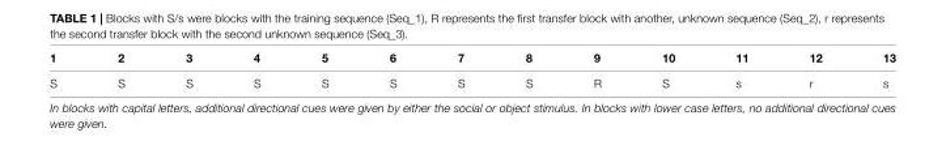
<table><thead><tr><td>1</td><td>2</td><td>3</td><td>4</td><td>5</td><td>6</td><td>7</td><td>8</td><td>9</td><td>10</td><td>11</td><td>12</td><td>13</td></tr></thead><tbody><tr><td>S</td><td>S</td><td>S</td><td>S</td><td>S</td><td>S</td><td>S</td><td>S</td><td>R</td><td>S</td><td>s</td><td>r</td><td>s</td></tr></tbody></table>